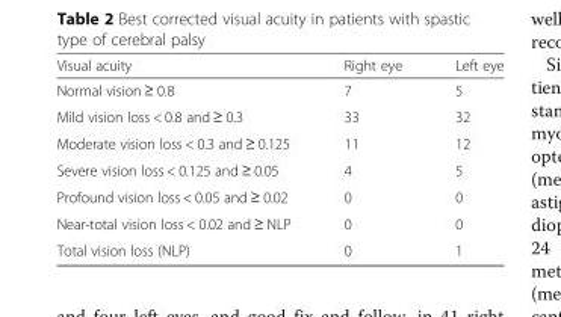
<table><thead><tr><td>Visual acuity</td><td>Right eye</td><td>Left eye</td></tr></thead><tbody><tr><td>Normal vision ≥ 0.8</td><td>7</td><td>5</td></tr><tr><td>Mild vision loss &lt; 0.8 and ≥ 0.3</td><td>33</td><td>32</td></tr><tr><td>Moderate vision loss &lt; 0.3 and ≥ 0.125</td><td>11</td><td>12</td></tr><tr><td>Severe vision loss &lt; 0.125 and ≥ 0.05</td><td>4</td><td>5</td></tr><tr><td>Profound vision loss &lt; 0.05 and ≥ 0.02</td><td>0</td><td>0</td></tr><tr><td>Near-total vision loss &lt; 0.02 and ≥ NLP</td><td>0</td><td>0</td></tr><tr><td>Total vision loss (NLP)</td><td>0</td><td>1</td></tr></tbody></table>